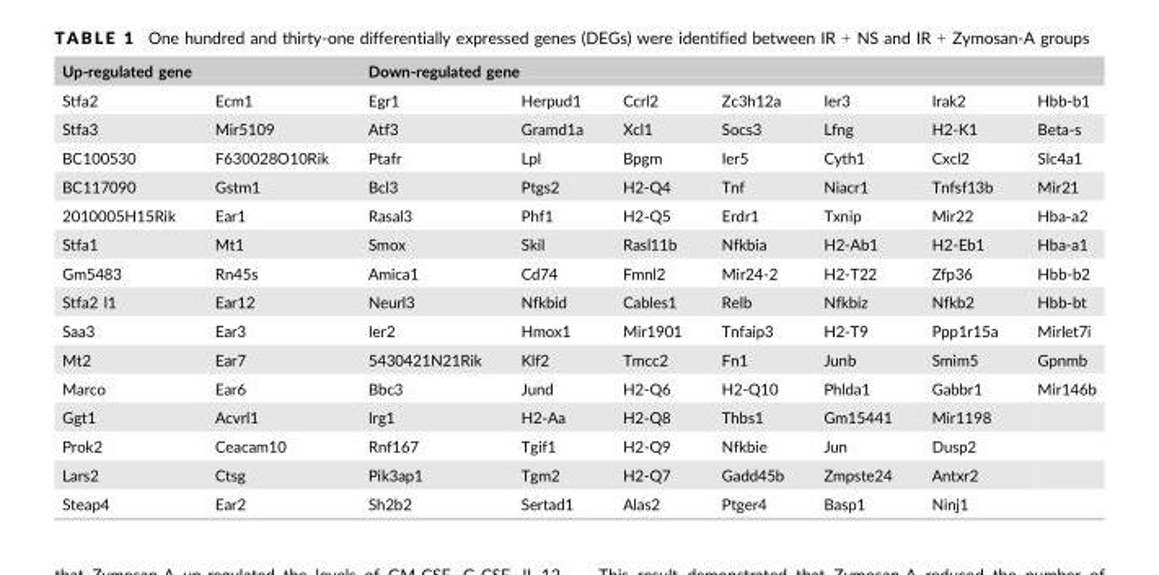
<table><thead><tr><td colspan="2">Up-regulated gene</td><td colspan="7">Down-regulated gene</td></tr><tr><td>Stfa2</td><td>Ecm1</td><td>Egr1</td><td>Herpud1</td><td>Ccrl2</td><td>Zc3h12a</td><td>Ier3</td><td>Irak2</td><td>Hbb-b1</td></tr></thead><tbody><tr><td>Stfa3</td><td>Mir5109</td><td>Atf3</td><td>Gramd1a</td><td>Xcl1</td><td>Socs3</td><td>Lfng</td><td>H2-K1</td><td>Beta-s</td></tr><tr><td>BC100530</td><td>F630028O10Rik</td><td>Ptafr</td><td>Lpl</td><td>Bpgm</td><td>Ier5</td><td>Cyth1</td><td>Cxcl2</td><td>Slc4a1</td></tr><tr><td>BC117090</td><td>Gstm1</td><td>Bcl3</td><td>Ptgs2</td><td>H2-Q4</td><td>Tnf</td><td>Niacr1</td><td>Tnfsf13b</td><td>Mir21</td></tr><tr><td>2010005H15Rik</td><td>Ear1</td><td>Rasal3</td><td>Phf1</td><td>H2-Q5</td><td>Erdr1</td><td>Txnip</td><td>Mir22</td><td>Hba-a2</td></tr><tr><td>Stfa1</td><td>Mt1</td><td>Smox</td><td>Skil</td><td>Rasl11b</td><td>Nfkbia</td><td>H2-Ab1</td><td>H2-Eb1</td><td>Hba-a1</td></tr><tr><td>Gm5483</td><td>Rn45s</td><td>Amica1</td><td>Cd74</td><td>Fmnl2</td><td>Mir24-2</td><td>H2-T22</td><td>Zfp36</td><td>Hbb-b2</td></tr><tr><td>Stfa2 l1</td><td>Ear12</td><td>Neurl3</td><td>Nfkbid</td><td>Cables1</td><td>Relb</td><td>Nfkbiz</td><td>Nfkb2</td><td>Hbb-bt</td></tr><tr><td>Saa3</td><td>Ear3</td><td>Ier2</td><td>Hmox1</td><td>Mir1901</td><td>Tnfaip3</td><td>H2-T9</td><td>Ppp1r15a</td><td>Mirlet7i</td></tr><tr><td>Mt2</td><td>Ear7</td><td>5430421N21Rik</td><td>Klf2</td><td>Tmcc2</td><td>Fn1</td><td>Junb</td><td>Smim5</td><td>Gpnmb</td></tr><tr><td>Marco</td><td>Ear6</td><td>Bbc3</td><td>Jund</td><td>H2-Q6</td><td>H2-Q10</td><td>Phlda1</td><td>Gabbr1</td><td>Mir146b</td></tr><tr><td>Ggt1</td><td>Acvrl1</td><td>Irg1</td><td>H2-Aa</td><td>H2-Q8</td><td>Thbs1</td><td>Gm15441</td><td>Mir1198</td><td></td></tr><tr><td>Prok2</td><td>Ceacam10</td><td>Rnf167</td><td>Tgif1</td><td>H2-Q9</td><td>Nfkbie</td><td>Jun</td><td>Dusp2</td><td></td></tr><tr><td>Lars2</td><td>Ctsg</td><td>Pik3ap1</td><td>Tgm2</td><td>H2-Q7</td><td>Gadd45b</td><td>Zmpste24</td><td>Antxr2</td><td></td></tr><tr><td>Steap4</td><td>Ear2</td><td>Sh2b2</td><td>Sertad1</td><td>Alas2</td><td>Ptger4</td><td>Basp1</td><td>Ninj1</td><td></td></tr></tbody></table>